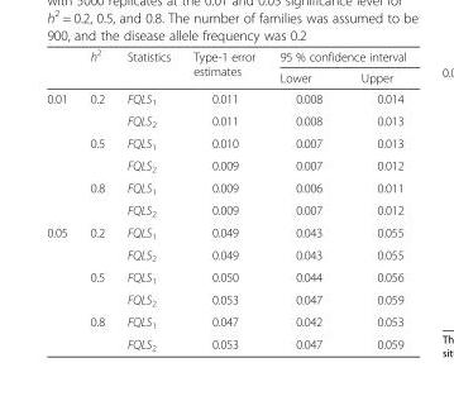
<table><thead><tr><td rowspan="2"></td><td rowspan="2">h<sup>2</sup></td><td rowspan="2">Statistics</td><td rowspan="2">Type-1 error estimates</td><td colspan="2">95 % confidence interval</td></tr><tr><td>Lower</td><td>Upper</td></tr></thead><tbody><tr><td rowspan="6">0.01</td><td rowspan="2">0.2</td><td>FQLS<sub>1</sub></td><td>0.011</td><td>0.008</td><td>0.014</td></tr><tr><td>FQLS<sub>2</sub></td><td>0.011</td><td>0.008</td><td>0.013</td></tr><tr><td rowspan="2">0.5</td><td>FQLS<sub>1</sub></td><td>0.010</td><td>0.007</td><td>0.013</td></tr><tr><td>FQLS<sub>2</sub></td><td>0.009</td><td>0.007</td><td>0.012</td></tr><tr><td rowspan="2">0.8</td><td>FQLS<sub>1</sub></td><td>0.009</td><td>0.006</td><td>0.011</td></tr><tr><td>FQLS<sub>2</sub></td><td>0.009</td><td>0.007</td><td>0.012</td></tr><tr><td rowspan="6">0.05</td><td rowspan="2">0.2</td><td>FQLS<sub>1</sub></td><td>0.049</td><td>0.043</td><td>0.055</td></tr><tr><td>FQLS<sub>2</sub></td><td>0.049</td><td>0.043</td><td>0.055</td></tr><tr><td rowspan="2">0.5</td><td>FQLS<sub>1</sub></td><td>0.050</td><td>0.044</td><td>0.056</td></tr><tr><td>FQLS<sub>2</sub></td><td>0.053</td><td>0.047</td><td>0.059</td></tr><tr><td rowspan="2">0.8</td><td>FQLS<sub>1</sub></td><td>0.047</td><td>0.042</td><td>0.053</td></tr><tr><td>FQLS<sub>2</sub></td><td>0.053</td><td>0.047</td><td>0.059</td></tr></tbody></table>